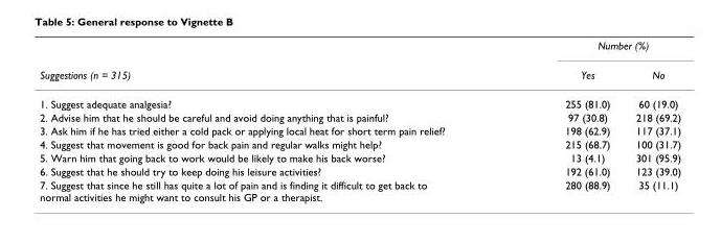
<table><thead><tr><td rowspan="2">Suggestions (n = 315)</td><td colspan="2">Number (%)</td></tr><tr><td>Yes</td><td>No</td></tr></thead><tbody><tr><td>1. Suggest adequate analgesia?</td><td>255 (81.0)</td><td>60 (19.0)</td></tr><tr><td>2. Advise him that he should be careful and avoid doing anything that is painful?</td><td>97 (30.8)</td><td>218 (69.2)</td></tr><tr><td>3. Ask him if he has tried either a cold pack or applying local heat for short term pain relief?</td><td>198 (62.9)</td><td>117 (37.1)</td></tr><tr><td>4. Suggest that movement is good for back pain and regular walks might help?</td><td>215 (68.7)</td><td>100 (31.7)</td></tr><tr><td>5. Warn him that going back to work would be likely to make his back worse?</td><td>13 (4.1)</td><td>301 (95.9)</td></tr><tr><td>6. Suggest that he should try to keep doing his leisure activities?</td><td>192 (61.0)</td><td>123 (39.0)</td></tr><tr><td>7. Suggest that since he still has quite a lot of pain and is finding it difficult to get back to normal activities he might want to consult his GP or a therapist.</td><td>280 (88.9)</td><td>35 (11.1)</td></tr></tbody></table>